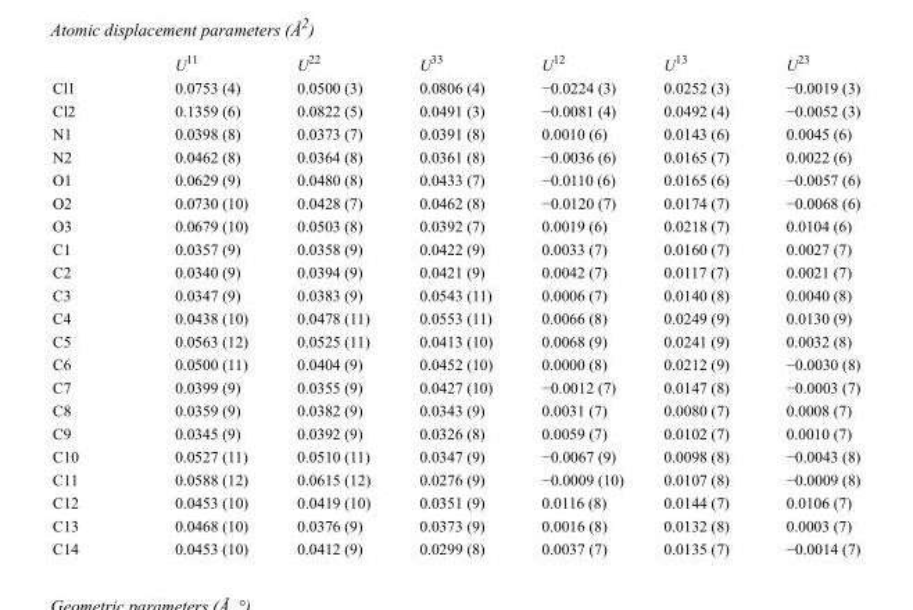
<table><thead><tr><td></td><td>U<sup>11</sup></td><td>U<sup>22</sup></td><td>U<sup>33</sup></td><td>U<sup>12</sup></td><td>U<sup>13</sup></td><td>U<sup>23</sup></td></tr></thead><tbody><tr><td>Cl1</td><td>0.0753 (4)</td><td>0.0500 (3)</td><td>0.0806 (4)</td><td>−0.0224 (3)</td><td>0.0252 (3)</td><td>−0.0019 (3)</td></tr><tr><td>Cl2</td><td>0.1359 (6)</td><td>0.0822 (5)</td><td>0.0491 (3)</td><td>−0.0081 (4)</td><td>0.0492 (4)</td><td>−0.0052 (3)</td></tr><tr><td>N1</td><td>0.0398 (8)</td><td>0.0373 (7)</td><td>0.0391 (8)</td><td>0.0010 (6)</td><td>0.0143 (6)</td><td>0.0045 (6)</td></tr><tr><td>N2</td><td>0.0462 (8)</td><td>0.0364 (8)</td><td>0.0361 (8)</td><td>−0.0036 (6)</td><td>0.0165 (7)</td><td>0.0022 (6)</td></tr><tr><td>O1</td><td>0.0629 (9)</td><td>0.0480 (8)</td><td>0.0433 (7)</td><td>−0.0110 (6)</td><td>0.0165 (6)</td><td>−0.0057 (6)</td></tr><tr><td>O2</td><td>0.0730 (10)</td><td>0.0428 (7)</td><td>0.0462 (8)</td><td>−0.0120 (7)</td><td>0.0174 (7)</td><td>−0.0068 (6)</td></tr><tr><td>O3</td><td>0.0679 (10)</td><td>0.0503 (8)</td><td>0.0392 (7)</td><td>0.0019 (6)</td><td>0.0218 (7)</td><td>0.0104 (6)</td></tr><tr><td>C1</td><td>0.0357 (9)</td><td>0.0358 (9)</td><td>0.0422 (9)</td><td>0.0033 (7)</td><td>0.0160 (7)</td><td>0.0027 (7)</td></tr><tr><td>C2</td><td>0.0340 (9)</td><td>0.0394 (9)</td><td>0.0421 (9)</td><td>0.0042 (7)</td><td>0.0117 (7)</td><td>0.0021 (7)</td></tr><tr><td>C3</td><td>0.0347 (9)</td><td>0.0383 (9)</td><td>0.0543 (11)</td><td>0.0006 (7)</td><td>0.0140 (8)</td><td>0.0040 (8)</td></tr><tr><td>C4</td><td>0.0438 (10)</td><td>0.0478 (11)</td><td>0.0553 (11)</td><td>0.0066 (8)</td><td>0.0249 (9)</td><td>0.0130 (9)</td></tr><tr><td>C5</td><td>0.0563 (12)</td><td>0.0525 (11)</td><td>0.0413 (10)</td><td>0.0068 (9)</td><td>0.0241 (9)</td><td>0.0032 (8)</td></tr><tr><td>C6</td><td>0.0500 (11)</td><td>0.0404 (9)</td><td>0.0452 (10)</td><td>0.0000 (8)</td><td>0.0212 (9)</td><td>−0.0030 (8)</td></tr><tr><td>C7</td><td>0.0399 (9)</td><td>0.0355 (9)</td><td>0.0427 (10)</td><td>−0.0012 (7)</td><td>0.0147 (8)</td><td>−0.0003 (7)</td></tr><tr><td>C8</td><td>0.0359 (9)</td><td>0.0382 (9)</td><td>0.0343 (9)</td><td>0.0031 (7)</td><td>0.0080 (7)</td><td>0.0008 (7)</td></tr><tr><td>C9</td><td>0.0345 (9)</td><td>0.0392 (9)</td><td>0.0326 (8)</td><td>0.0059 (7)</td><td>0.0102 (7)</td><td>0.0010 (7)</td></tr><tr><td>C10</td><td>0.0527 (11)</td><td>0.0510 (11)</td><td>0.0347 (9)</td><td>−0.0067 (9)</td><td>0.0098 (8)</td><td>−0.0043 (8)</td></tr><tr><td>C11</td><td>0.0588 (12)</td><td>0.0615 (12)</td><td>0.0276 (9)</td><td>−0.0009 (10)</td><td>0.0107 (8)</td><td>−0.0009 (8)</td></tr><tr><td>C12</td><td>0.0453 (10)</td><td>0.0419 (10)</td><td>0.0351 (9)</td><td>0.0116 (8)</td><td>0.0144 (7)</td><td>0.0106 (7)</td></tr><tr><td>C13</td><td>0.0468 (10)</td><td>0.0376 (9)</td><td>0.0373 (9)</td><td>0.0016 (8)</td><td>0.0132 (8)</td><td>0.0003 (7)</td></tr><tr><td>C14</td><td>0.0453 (10)</td><td>0.0412 (9)</td><td>0.0299 (8)</td><td>0.0037 (7)</td><td>0.0135 (7)</td><td>−0.0014 (7)</td></tr></tbody></table>